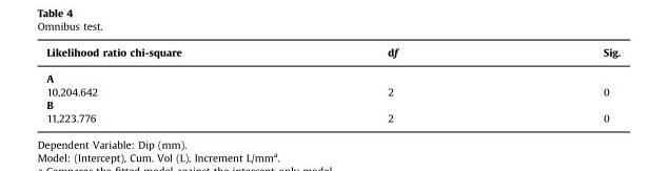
<table><thead><tr><td>Likelihood ratio chi-square</td><td>df</td><td>Sig.</td></tr></thead><tbody><tr><td colspan="3">A</td></tr><tr><td>10,204.642</td><td>2</td><td>0</td></tr><tr><td colspan="3">B</td></tr><tr><td>11,223.776</td><td>2</td><td>0</td></tr></tbody></table>